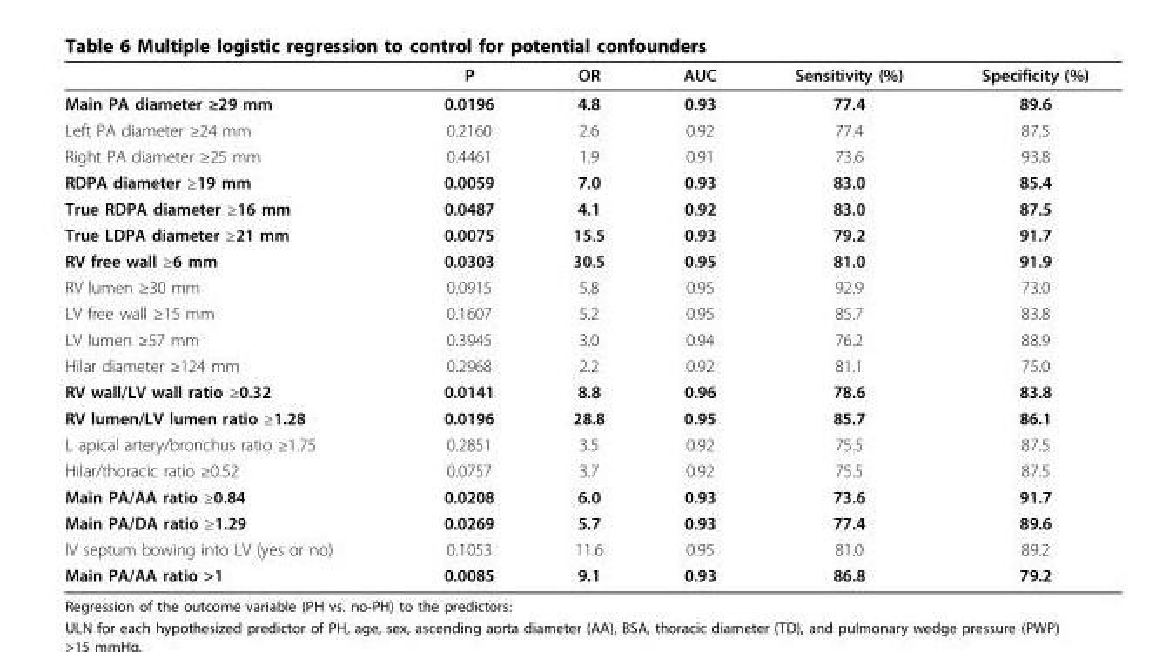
<table><thead><tr><td></td><td>P</td><td>OR</td><td>AUC</td><td>Sensitivity (%)</td><td>Specificity (%)</td></tr></thead><tbody><tr><td>Main PA diameter ≥29 mm</td><td>0.0196</td><td>4.8</td><td>0.93</td><td>77.4</td><td>89.6</td></tr><tr><td>Left PA diameter ≥24 mm</td><td>0.2160</td><td>2.6</td><td>0.92</td><td>77.4</td><td>87.5</td></tr><tr><td>Right PA diameter ≥25 mm</td><td>0.4461</td><td>1.9</td><td>0.91</td><td>73.6</td><td>93.8</td></tr><tr><td>RDPA diameter ≥19 mm</td><td>0.0059</td><td>7.0</td><td>0.93</td><td>83.0</td><td>85.4</td></tr><tr><td>True RDPA diameter ≥16 mm</td><td>0.0487</td><td>4.1</td><td>0.92</td><td>83.0</td><td>87.5</td></tr><tr><td>True LDPA diameter ≥21 mm</td><td>0.0075</td><td>15.5</td><td>0.93</td><td>79.2</td><td>91.7</td></tr><tr><td>RV free wall ≥6 mm</td><td>0.0303</td><td>30.5</td><td>0.95</td><td>81.0</td><td>91.9</td></tr><tr><td>RV lumen ≥30 mm</td><td>0.0915</td><td>5.8</td><td>0.95</td><td>92.9</td><td>73.0</td></tr><tr><td>LV free wall ≥15 mm</td><td>0.1607</td><td>5.2</td><td>0.95</td><td>85.7</td><td>83.8</td></tr><tr><td>LV lumen ≥57 mm</td><td>0.3945</td><td>3.0</td><td>0.94</td><td>76.2</td><td>88.9</td></tr><tr><td>Hilar diameter ≥124 mm</td><td>0.2968</td><td>2.2</td><td>0.92</td><td>81.1</td><td>75.0</td></tr><tr><td>RV wall/LV wall ratio ≥0.32</td><td>0.0141</td><td>8.8</td><td>0.96</td><td>78.6</td><td>83.8</td></tr><tr><td>RV lumen/LV lumen ratio ≥1.28</td><td>0.0196</td><td>28.8</td><td>0.95</td><td>85.7</td><td>86.1</td></tr><tr><td>L apical artery/bronchus ratio ≥1.75</td><td>0.2851</td><td>3.5</td><td>0.92</td><td>75.5</td><td>87.5</td></tr><tr><td>Hilar/thoracic ratio ≥0.52</td><td>0.0757</td><td>3.7</td><td>0.92</td><td>75.5</td><td>87.5</td></tr><tr><td>Main PA/AA ratio ≥0.84</td><td>0.0208</td><td>6.0</td><td>0.93</td><td>73.6</td><td>91.7</td></tr><tr><td>Main PA/DA ratio ≥1.29</td><td>0.0269</td><td>5.7</td><td>0.93</td><td>77.4</td><td>89.6</td></tr><tr><td>IV septum bowing into LV (yes or no)</td><td>0.1053</td><td>11.6</td><td>0.95</td><td>81.0</td><td>89.2</td></tr><tr><td>Main PA/AA ratio &gt;1</td><td>0.0085</td><td>9.1</td><td>0.93</td><td>86.8</td><td>79.2</td></tr></tbody></table>